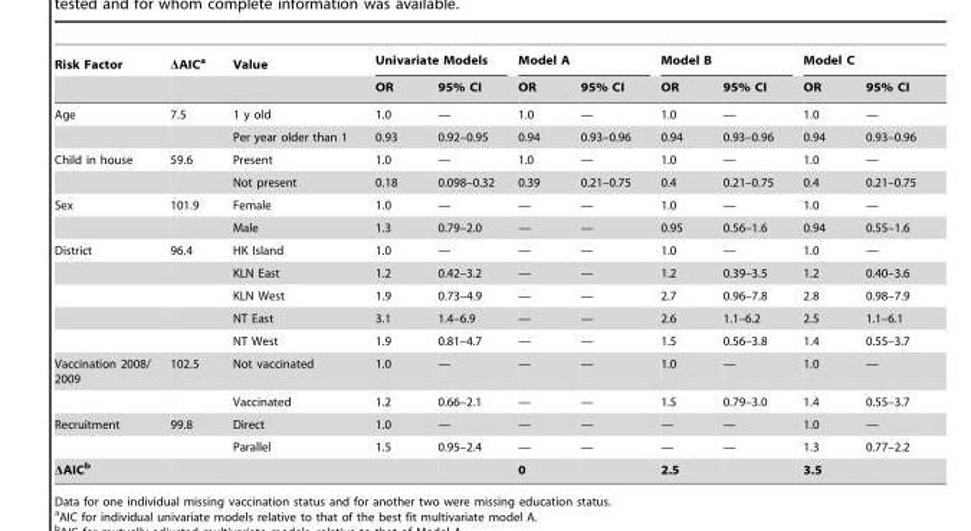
<table><thead><tr><td rowspan="2">Risk Factor</td><td rowspan="2">ΔAIC<sup>a</sup></td><td rowspan="2">Value</td><td colspan="2">Univariate Models</td><td colspan="2">Model A</td><td colspan="2">Model B</td><td colspan="2">Model C</td></tr><tr><td>OR</td><td>95% CI</td><td>OR</td><td>95% CI</td><td>OR</td><td>95% CI</td><td>OR</td><td>95% CI</td></tr></thead><tbody><tr><td rowspan="2">Age</td><td>7.5</td><td>1 y old</td><td>1.0</td><td>—</td><td>1.0</td><td>—</td><td>1.0</td><td>—</td><td>1.0</td><td>—</td></tr><tr><td></td><td>Per year older than 1</td><td>0.93</td><td>0.92–0.95</td><td>0.94</td><td>0.93–0.96</td><td>0.94</td><td>0.93–0.96</td><td>0.94</td><td>0.93–0.96</td></tr><tr><td rowspan="2">Child in house</td><td>59.6</td><td>Present</td><td>1.0</td><td>—</td><td>1.0</td><td>—</td><td>1.0</td><td>—</td><td>1.0</td><td>—</td></tr><tr><td></td><td>Not present</td><td>0.18</td><td>0.098–0.32</td><td>0.39</td><td>0.21–0.75</td><td>0.4</td><td>0.21–0.75</td><td>0.4</td><td>0.21–0.75</td></tr><tr><td rowspan="2">Sex</td><td>101.9</td><td>Female</td><td>1.0</td><td>—</td><td>—</td><td>—</td><td>1.0</td><td>—</td><td>1.0</td><td>—</td></tr><tr><td></td><td>Male</td><td>1.3</td><td>0.79–2.0</td><td>—</td><td>—</td><td>0.95</td><td>0.56–1.6</td><td>0.94</td><td>0.55–1.6</td></tr><tr><td rowspan="5">District</td><td>96.4</td><td>HK Island</td><td>1.0</td><td>—</td><td>—</td><td>—</td><td>1.0</td><td>—</td><td>1.0</td><td>—</td></tr><tr><td></td><td>KLN East</td><td>1.2</td><td>0.42–3.2</td><td>—</td><td>—</td><td>1.2</td><td>0.39–3.5</td><td>1.2</td><td>0.40–3.6</td></tr><tr><td></td><td>KLN West</td><td>1.9</td><td>0.73–4.9</td><td>—</td><td>—</td><td>2.7</td><td>0.96–7.8</td><td>2.8</td><td>0.98–7.9</td></tr><tr><td></td><td>NT East</td><td>3.1</td><td>1.4–6.9</td><td>—</td><td>—</td><td>2.6</td><td>1.1–6.2</td><td>2.5</td><td>1.1–6.1</td></tr><tr><td></td><td>NT West</td><td>1.9</td><td>0.81–4.7</td><td>—</td><td>—</td><td>1.5</td><td>0.56–3.8</td><td>1.4</td><td>0.55–3.7</td></tr><tr><td rowspan="2">Vaccination 2008/ 2009</td><td>102.5</td><td>Not vaccinated</td><td>1.0</td><td>—</td><td>—</td><td>—</td><td>1.0</td><td>—</td><td>1.0</td><td>—</td></tr><tr><td></td><td>Vaccinated</td><td>1.2</td><td>0.66–2.1</td><td>—</td><td>—</td><td>1.5</td><td>0.79–3.0</td><td>1.4</td><td>0.55–3.7</td></tr><tr><td rowspan="2">Recruitment</td><td>99.8</td><td>Direct</td><td>1.0</td><td>—</td><td>—</td><td>—</td><td>—</td><td>—</td><td>1.0</td><td>—</td></tr><tr><td></td><td>Parallel</td><td>1.5</td><td>0.95–2.4</td><td>—</td><td>—</td><td>—</td><td>—</td><td>1.3</td><td>0.77–2.2</td></tr><tr><td>ΔAICb</td><td></td><td></td><td></td><td></td><td>0</td><td></td><td>2.5</td><td></td><td>3.5</td><td></td></tr></tbody></table>